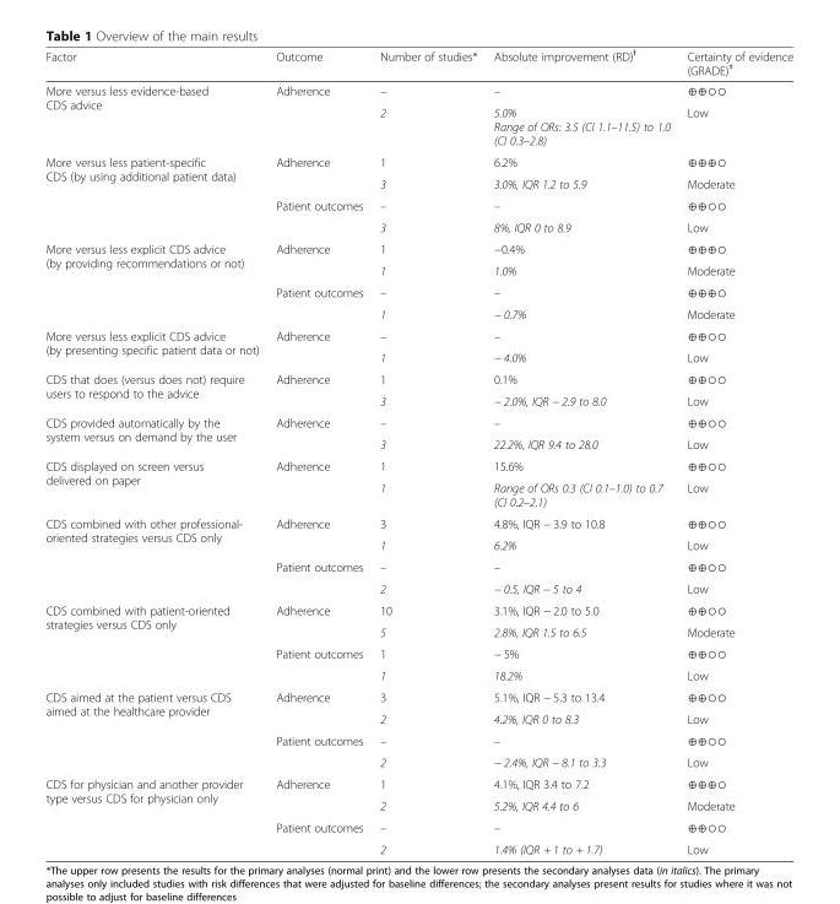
<table><thead><tr><td>Factor</td><td>Outcome</td><td>Number of studies*</td><td>Absolute improvement (RD)<sup>Ɨ</sup></td><td>Certainty of evidence (GRADE)<sup>ǂ</sup></td></tr></thead><tbody><tr><td rowspan="2">More versus less evidence-based CDS advice</td><td rowspan="2">Adherence</td><td>–</td><td>–</td><td>⊕⊕○○</td></tr><tr><td>2</td><td>5.0% Range of ORs: 3.5 (CI 1.1–11.5) to 1.0 (CI 0.3–2.8)</td><td>Low</td></tr><tr><td rowspan="4">More versus less patient-specific CDS (by using additional patient data)</td><td rowspan="2">Adherence</td><td>1</td><td>6.2%</td><td>⊕⊕⊕○</td></tr><tr><td>3</td><td>3.0%, IQR 1.2 to 5.9</td><td>Moderate</td></tr><tr><td rowspan="2">Patient outcomes</td><td>–</td><td>–</td><td>⊕⊕○○</td></tr><tr><td>3</td><td>8%, IQR 0 to 8.9</td><td>Low</td></tr><tr><td rowspan="4">More versus less explicit CDS advice (by providing recommendations or not)</td><td rowspan="2">Adherence</td><td>1</td><td>−0.4%</td><td>⊕⊕⊕○</td></tr><tr><td>1</td><td>1.0%</td><td>Moderate</td></tr><tr><td rowspan="2">Patient outcomes</td><td>–</td><td>–</td><td>⊕⊕⊕○</td></tr><tr><td>1</td><td>− 0.7%</td><td>Moderate</td></tr><tr><td rowspan="2">More versus less explicit CDS advice (by presenting specific patient data or not)</td><td rowspan="2">Adherence</td><td>–</td><td>–</td><td>⊕⊕○○</td></tr><tr><td>1</td><td>− 4.0%</td><td>Low</td></tr><tr><td rowspan="2">CDS that does (versus does not) require users to respond to the advice</td><td rowspan="2">Adherence</td><td>1</td><td>0.1%</td><td>⊕⊕○○</td></tr><tr><td>3</td><td>− 2.0%, IQR − 2.9 to 8.0</td><td>Low</td></tr><tr><td rowspan="2">CDS provided automatically by the system versus on demand by the user</td><td rowspan="2">Adherence</td><td>–</td><td>–</td><td>⊕⊕○○</td></tr><tr><td>3</td><td>22.2%, IQR 9.4 to 28.0</td><td>Low</td></tr><tr><td rowspan="2">CDS displayed on screen versus delivered on paper</td><td rowspan="2">Adherence</td><td>1</td><td>15.6%</td><td>⊕⊕○○</td></tr><tr><td>1</td><td>Range of ORs 0.3 (CI 0.1–1.0) to 0.7 (CI 0.2–2.1)</td><td>Low</td></tr><tr><td rowspan="4">CDS combined with other professional- oriented strategies versus CDS only</td><td rowspan="2">Adherence</td><td>3</td><td>4.8%, IQR − 3.9 to 10.8</td><td>⊕⊕○○</td></tr><tr><td>1</td><td>6.2%</td><td>Low</td></tr><tr><td rowspan="2">Patient outcomes</td><td>–</td><td>–</td><td>⊕⊕○○</td></tr><tr><td>2</td><td>− 0.5, IQR − 5 to 4</td><td>Low</td></tr><tr><td rowspan="4">CDS combined with patient-oriented strategies versus CDS only</td><td rowspan="2">Adherence</td><td>10</td><td>3.1%, IQR − 2.0 to 5.0</td><td>⊕⊕○○</td></tr><tr><td>5</td><td>2.8%, IQR 1.5 to 6.5</td><td>Moderate</td></tr><tr><td rowspan="2">Patient outcomes</td><td>1</td><td>− 5%</td><td>⊕⊕○○</td></tr><tr><td>1</td><td>18.2%</td><td>Low</td></tr><tr><td rowspan="4">CDS aimed at the patient versus CDS aimed at the healthcare provider</td><td rowspan="2">Adherence</td><td>3</td><td>5.1%, IQR − 5.3 to 13.4</td><td>⊕⊕○○</td></tr><tr><td>2</td><td>4.2%, IQR 0 to 8.3</td><td>Low</td></tr><tr><td rowspan="2">Patient outcomes</td><td>–</td><td>–</td><td>⊕⊕○○</td></tr><tr><td>2</td><td>− 2.4%, IQR − 8.1 to 3.3</td><td>Low</td></tr><tr><td rowspan="4">CDS for physician and another provider type versus CDS for physician only</td><td rowspan="2">Adherence</td><td>1</td><td>4.1%, IQR 3.4 to 7.2</td><td>⊕⊕⊕○</td></tr><tr><td>2</td><td>5.2%, IQR 4.4 to 6</td><td>Moderate</td></tr><tr><td rowspan="2">Patient outcomes</td><td>–</td><td>–</td><td>⊕⊕○○</td></tr><tr><td>2</td><td>1.4% (IQR + 1 to + 1.7)</td><td>Low</td></tr></tbody></table>